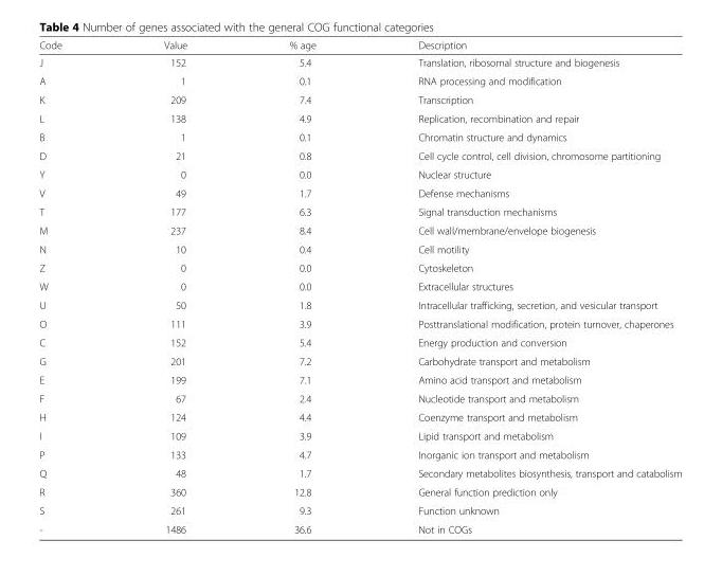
<table><thead><tr><td>Code</td><td>Value</td><td>% age</td><td>Description</td></tr></thead><tbody><tr><td>J</td><td>152</td><td>5.4</td><td>Translation, ribosomal structure and biogenesis</td></tr><tr><td>A</td><td>1</td><td>0.1</td><td>RNA processing and modification</td></tr><tr><td>K</td><td>209</td><td>7.4</td><td>Transcription</td></tr><tr><td>L</td><td>138</td><td>4.9</td><td>Replication, recombination and repair</td></tr><tr><td>B</td><td>1</td><td>0.1</td><td>Chromatin structure and dynamics</td></tr><tr><td>D</td><td>21</td><td>0.8</td><td>Cell cycle control, cell division, chromosome partitioning</td></tr><tr><td>Y</td><td>0</td><td>0.0</td><td>Nuclear structure</td></tr><tr><td>V</td><td>49</td><td>1.7</td><td>Defense mechanisms</td></tr><tr><td>T</td><td>177</td><td>6.3</td><td>Signal transduction mechanisms</td></tr><tr><td>M</td><td>237</td><td>8.4</td><td>Cell wall/membrane/envelope biogenesis</td></tr><tr><td>N</td><td>10</td><td>0.4</td><td>Cell motility</td></tr><tr><td>Z</td><td>0</td><td>0.0</td><td>Cytoskeleton</td></tr><tr><td>W</td><td>0</td><td>0.0</td><td>Extracellular structures</td></tr><tr><td>U</td><td>50</td><td>1.8</td><td>Intracellular trafficking, secretion, and vesicular transport</td></tr><tr><td>O</td><td>111</td><td>3.9</td><td>Posttranslational modification, protein turnover, chaperones</td></tr><tr><td>C</td><td>152</td><td>5.4</td><td>Energy production and conversion</td></tr><tr><td>G</td><td>201</td><td>7.2</td><td>Carbohydrate transport and metabolism</td></tr><tr><td>E</td><td>199</td><td>7.1</td><td>Amino acid transport and metabolism</td></tr><tr><td>F</td><td>67</td><td>2.4</td><td>Nucleotide transport and metabolism</td></tr><tr><td>H</td><td>124</td><td>4.4</td><td>Coenzyme transport and metabolism</td></tr><tr><td>I</td><td>109</td><td>3.9</td><td>Lipid transport and metabolism</td></tr><tr><td>P</td><td>133</td><td>4.7</td><td>Inorganic ion transport and metabolism</td></tr><tr><td>Q</td><td>48</td><td>1.7</td><td>Secondary metabolites biosynthesis, transport and catabolism</td></tr><tr><td>R</td><td>360</td><td>12.8</td><td>General function prediction only</td></tr><tr><td>S</td><td>261</td><td>9.3</td><td>Function unknown</td></tr><tr><td>-</td><td>1486</td><td>36.6</td><td>Not in COGs</td></tr></tbody></table>